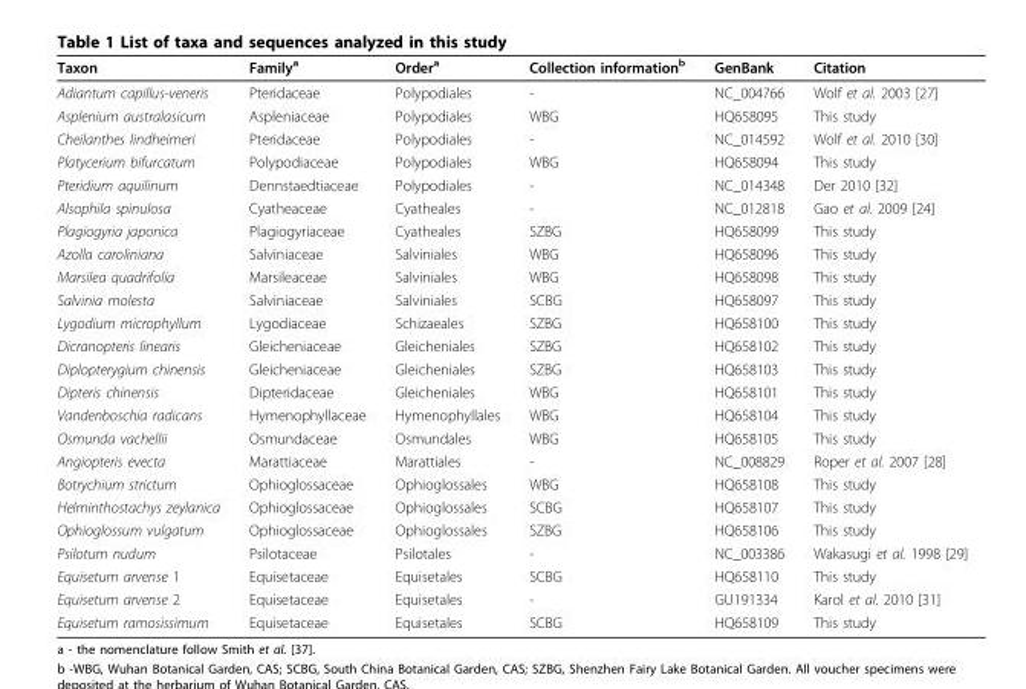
<table><thead><tr><td>Taxon</td><td>Family<sup>a</sup></td><td>Order<sup>a</sup></td><td>Collection information<sup>b</sup></td><td>GenBank</td><td>Citation</td></tr></thead><tbody><tr><td>Adiantum capillus-veneris</td><td>Pteridaceae</td><td>Polypodiales</td><td>-</td><td>NC_004766</td><td>Wolf et al. 2003 [27]</td></tr><tr><td>Asplenium australasicum</td><td>Aspleniaceae</td><td>Polypodiales</td><td>WBG</td><td>HQ658095</td><td>This study</td></tr><tr><td>Cheilanthes lindheimeri</td><td>Pteridaceae</td><td>Polypodiales</td><td>-</td><td>NC_014592</td><td>Wolf et al. 2010 [30]</td></tr><tr><td>Platycerium bifurcatum</td><td>Polypodiaceae</td><td>Polypodiales</td><td>WBG</td><td>HQ658094</td><td>This study</td></tr><tr><td>Pteridium aquilinum</td><td>Dennstaedtiaceae</td><td>Polypodiales</td><td>-</td><td>NC_014348</td><td>Der 2010 [32]</td></tr><tr><td>Alsophila spinulosa</td><td>Cyatheaceae</td><td>Cyatheales</td><td>-</td><td>NC_012818</td><td>Gao et al. 2009 [24]</td></tr><tr><td>Plagiogyria japonica</td><td>Plagiogyriaceae</td><td>Cyatheales</td><td>SZBG</td><td>HQ658099</td><td>This study</td></tr><tr><td>Azolla caroliniana</td><td>Salviniaceae</td><td>Salviniales</td><td>WBG</td><td>HQ658096</td><td>This study</td></tr><tr><td>Marsilea quadrifolia</td><td>Marsileaceae</td><td>Salviniales</td><td>WBG</td><td>HQ658098</td><td>This study</td></tr><tr><td>Salvinia molesta</td><td>Salviniaceae</td><td>Salviniales</td><td>SCBG</td><td>HQ658097</td><td>This study</td></tr><tr><td>Lygodium microphyllum</td><td>Lygodiaceae</td><td>Schizaeales</td><td>SZBG</td><td>HQ658100</td><td>This study</td></tr><tr><td>Dicranopteris linearis</td><td>Gleicheniaceae</td><td>Gleicheniales</td><td>SZBG</td><td>HQ658102</td><td>This study</td></tr><tr><td>Diplopterygium chinensis</td><td>Gleicheniaceae</td><td>Gleicheniales</td><td>SZBG</td><td>HQ658103</td><td>This study</td></tr><tr><td>Dipteris chinensis</td><td>Dipteridaceae</td><td>Gleicheniales</td><td>WBG</td><td>HQ658101</td><td>This study</td></tr><tr><td>Vandenboschia radicans</td><td>Hymenophyllaceae</td><td>Hymenophyllales</td><td>WBG</td><td>HQ658104</td><td>This study</td></tr><tr><td>Osmunda vachellii</td><td>Osmundaceae</td><td>Osmundales</td><td>WBG</td><td>HQ658105</td><td>This study</td></tr><tr><td>Angiopteris evecta</td><td>Marattiaceae</td><td>Marattiales</td><td>-</td><td>NC_008829</td><td>Roper et al. 2007 [28]</td></tr><tr><td>Botrychium strictum</td><td>Ophioglossaceae</td><td>Ophioglossales</td><td>WBG</td><td>HQ658108</td><td>This study</td></tr><tr><td>Helminthostachys zeylanica</td><td>Ophioglossaceae</td><td>Ophioglossales</td><td>SCBG</td><td>HQ658107</td><td>This study</td></tr><tr><td>Ophioglossum vulgatum</td><td>Ophioglossaceae</td><td>Ophioglossales</td><td>SZBG</td><td>HQ658106</td><td>This study</td></tr><tr><td>Psilotum nudum</td><td>Psilotaceae</td><td>Psilotales</td><td>-</td><td>NC_003386</td><td>Wakasugi et al. 1998 [29]</td></tr><tr><td>Equisetum arvense 1</td><td>Equisetaceae</td><td>Equisetales</td><td>SCBG</td><td>HQ658110</td><td>This study</td></tr><tr><td>Equisetum arvense 2</td><td>Equisetaceae</td><td>Equisetales</td><td>-</td><td>GU191334</td><td>Karol et al. 2010 [31]</td></tr><tr><td>Equisetum ramosissimum</td><td>Equisetaceae</td><td>Equisetales</td><td>SCBG</td><td>HQ658109</td><td>This study</td></tr></tbody></table>